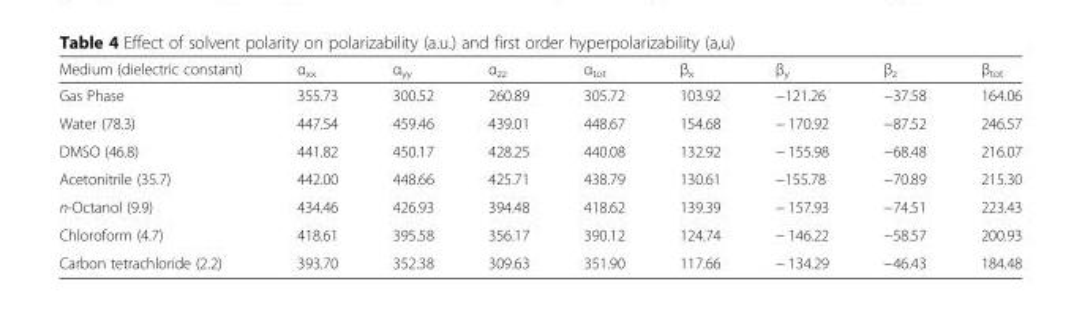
<table><thead><tr><td>Medium (dielectric constant)</td><td>α<sub>xx</sub></td><td>α<sub>yy</sub></td><td>α<sub>zz</sub></td><td>α<sub>tot</sub></td><td>β<sub>x</sub></td><td>β<sub>y</sub></td><td>β<sub>z</sub></td><td>β<sub>tot</sub></td></tr></thead><tbody><tr><td>Gas Phase</td><td>355.73</td><td>300.52</td><td>260.89</td><td>305.72</td><td>103.92</td><td>−121.26</td><td>−37.58</td><td>164.06</td></tr><tr><td>Water (78.3)</td><td>447.54</td><td>459.46</td><td>439.01</td><td>448.67</td><td>154.68</td><td>− 170.92</td><td>−87.52</td><td>246.57</td></tr><tr><td>DMSO (46.8)</td><td>441.82</td><td>450.17</td><td>428.25</td><td>440.08</td><td>132.92</td><td>− 155.98</td><td>−68.48</td><td>216.07</td></tr><tr><td>Acetonitrile (35.7)</td><td>442.00</td><td>448.66</td><td>425.71</td><td>438.79</td><td>130.61</td><td>−155.78</td><td>−70.89</td><td>215.30</td></tr><tr><td>n-Octanol (9.9)</td><td>434.46</td><td>426.93</td><td>394.48</td><td>418.62</td><td>139.39</td><td>− 157.93</td><td>−74.51</td><td>223.43</td></tr><tr><td>Chloroform (4.7)</td><td>418.61</td><td>395.58</td><td>356.17</td><td>390.12</td><td>124.74</td><td>− 146.22</td><td>−58.57</td><td>200.93</td></tr><tr><td>Carbon tetrachloride (2.2)</td><td>393.70</td><td>352.38</td><td>309.63</td><td>351.90</td><td>117.66</td><td>− 134.29</td><td>−46.43</td><td>184.48</td></tr></tbody></table>